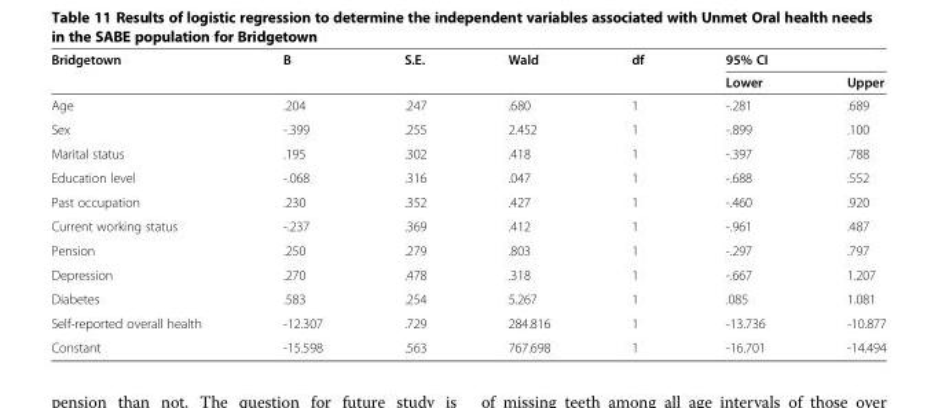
<table><thead><tr><td rowspan="2">Bridgetown</td><td rowspan="2">B</td><td rowspan="2">S.E.</td><td rowspan="2">Wald</td><td rowspan="2">df</td><td colspan="2">95% CI</td></tr><tr><td>Lower</td><td>Upper</td></tr></thead><tbody><tr><td>Age</td><td>.204</td><td>.247</td><td>.680</td><td>1</td><td>-.281</td><td>.689</td></tr><tr><td>Sex</td><td>-.399</td><td>.255</td><td>2.452</td><td>1</td><td>-.899</td><td>.100</td></tr><tr><td>Marital status</td><td>.195</td><td>.302</td><td>.418</td><td>1</td><td>-.397</td><td>.788</td></tr><tr><td>Education level</td><td>-.068</td><td>.316</td><td>.047</td><td>1</td><td>-.688</td><td>.552</td></tr><tr><td>Past occupation</td><td>.230</td><td>.352</td><td>.427</td><td>1</td><td>-.460</td><td>.920</td></tr><tr><td>Current working status</td><td>-.237</td><td>.369</td><td>.412</td><td>1</td><td>-.961</td><td>.487</td></tr><tr><td>Pension</td><td>.250</td><td>.279</td><td>.803</td><td>1</td><td>-.297</td><td>.797</td></tr><tr><td>Depression</td><td>.270</td><td>.478</td><td>.318</td><td>1</td><td>-.667</td><td>1.207</td></tr><tr><td>Diabetes</td><td>.583</td><td>.254</td><td>5.267</td><td>1</td><td>.085</td><td>1.081</td></tr><tr><td>Self-reported overall health</td><td>-12.307</td><td>.729</td><td>284.816</td><td>1</td><td>-13.736</td><td>-10.877</td></tr><tr><td>Constant</td><td>-15.598</td><td>.563</td><td>767.698</td><td>1</td><td>-16.701</td><td>-14.494</td></tr></tbody></table>